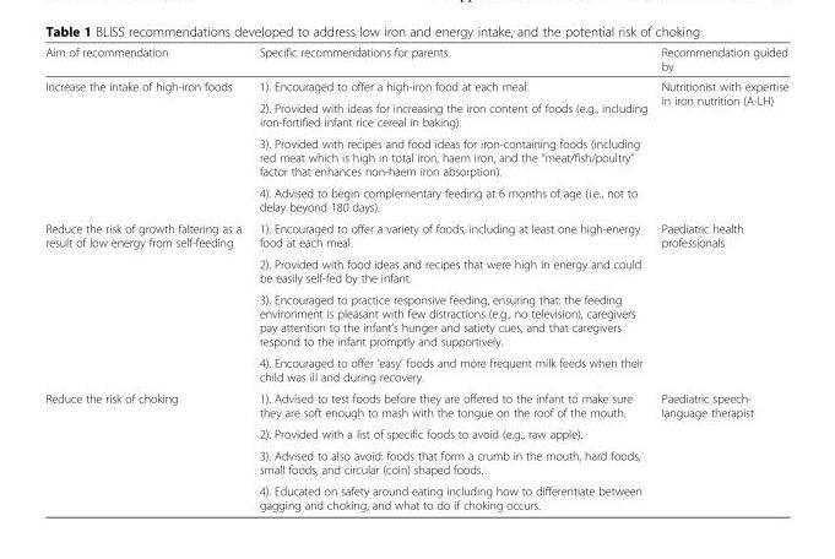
<table><thead><tr><td>Aim of recommendation</td><td>Specific recommendations for parents</td><td>Recommendation guided by</td></tr></thead><tbody><tr><td rowspan="4">Increase the intake of high-iron foods</td><td>1). Encouraged to offer a high-iron food at each meal.</td><td rowspan="4">Nutritionist with expertise in iron nutrition (A-LH)</td></tr><tr><td>2). Provided with ideas for increasing the iron content of foods (e.g., including iron-fortified infant rice cereal in baking).</td></tr><tr><td>3). Provided with recipes and food ideas for iron-containing foods (including red meat which is high in total iron, haem iron, and the “meat/fish/poultry” factor that enhances non-haem iron absorption).</td></tr><tr><td>4). Advised to begin complementary feeding at 6 months of age (i.e., not to delay beyond 180 days).</td></tr><tr><td rowspan="4">Reduce the risk of growth faltering as a result of low energy from self-feeding</td><td>1). Encouraged to offer a variety of foods, including at least one high-energy food at each meal.</td><td rowspan="4">Paediatric health professionals</td></tr><tr><td>2). Provided with food ideas and recipes that were high in energy and could be easily self-fed by the infant.</td></tr><tr><td>3). Encouraged to practice responsive feeding, ensuring that: the feeding environment is pleasant with few distractions (e.g., no television), caregivers pay attention to the infant’s hunger and satiety cues, and that caregivers respond to the infant promptly and supportively.</td></tr><tr><td>4). Encouraged to offer ‘easy’ foods and more frequent milk feeds when their child was ill and during recovery.</td></tr><tr><td rowspan="4">Reduce the risk of choking</td><td>1). Advised to test foods before they are offered to the infant to make sure they are soft enough to mash with the tongue on the roof of the mouth.</td><td rowspan="4">Paediatric speech- language therapist</td></tr><tr><td>2). Provided with a list of specific foods to avoid (e.g., raw apple).</td></tr><tr><td>3). Advised to also avoid: foods that form a crumb in the mouth, hard foods, small foods, and circular (coin) shaped foods.</td></tr><tr><td>4). Educated on safety around eating including how to differentiate between gagging and choking, and what to do if choking occurs.</td></tr></tbody></table>